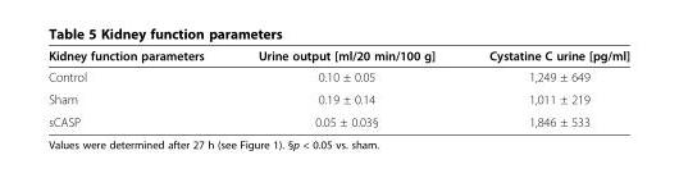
<table><thead><tr><td>Kidney function parameters</td><td>Urine output [ml/20 min/100 g]</td><td>Cystatine C urine [pg/ml]</td></tr></thead><tbody><tr><td>Control</td><td>0.10 ± 0.05</td><td>1,249 ± 649</td></tr><tr><td>Sham</td><td>0.19 ± 0.14</td><td>1,011 ± 219</td></tr><tr><td>sCASP</td><td>0.05 ± 0.03§</td><td>1,846 ± 533</td></tr></tbody></table>